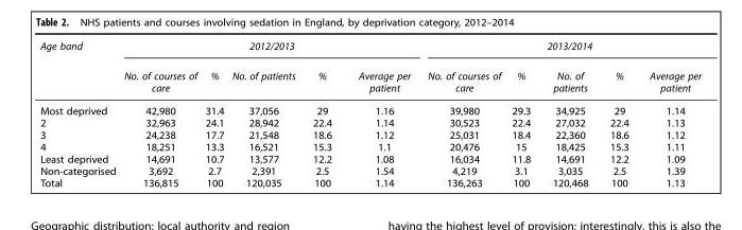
<table><thead><tr><td rowspan="2">Age band</td><td colspan="5">2012/2013</td><td colspan="5">2013/2014</td></tr><tr><td>No. of courses of care</td><td>%</td><td>No. of patients</td><td>%</td><td>Average per patient</td><td>No. of courses of care</td><td>%</td><td>No. of patients</td><td>%</td><td>Average per patient</td></tr></thead><tbody><tr><td>Most deprived</td><td>42,980</td><td>31.4</td><td>37,056</td><td>29</td><td>1.16</td><td>39,980</td><td>29.3</td><td>34,925</td><td>29</td><td>1.14</td></tr><tr><td>2</td><td>32,963</td><td>24.1</td><td>28,942</td><td>22.4</td><td>1.14</td><td>30,523</td><td>22.4</td><td>27,032</td><td>22.4</td><td>1.13</td></tr><tr><td>3</td><td>24,238</td><td>17.7</td><td>21,548</td><td>18.6</td><td>1.12</td><td>25,031</td><td>18.4</td><td>22,360</td><td>18.6</td><td>1.12</td></tr><tr><td>4</td><td>18,251</td><td>13.3</td><td>16,521</td><td>15.3</td><td>1.1</td><td>20,476</td><td>15</td><td>18,425</td><td>15.3</td><td>1.11</td></tr><tr><td>Least deprived</td><td>14,691</td><td>10.7</td><td>13,577</td><td>12.2</td><td>1.08</td><td>16,034</td><td>11.8</td><td>14,691</td><td>12.2</td><td>1.09</td></tr><tr><td>Non-categorised</td><td>3,692</td><td>2.7</td><td>2,391</td><td>2.5</td><td>1.54</td><td>4,219</td><td>3.1</td><td>3,035</td><td>2.5</td><td>1.39</td></tr><tr><td>Total</td><td>136,815</td><td>100</td><td>120,035</td><td>100</td><td>1.14</td><td>136,263</td><td>100</td><td>120,468</td><td>100</td><td>1.13</td></tr></tbody></table>